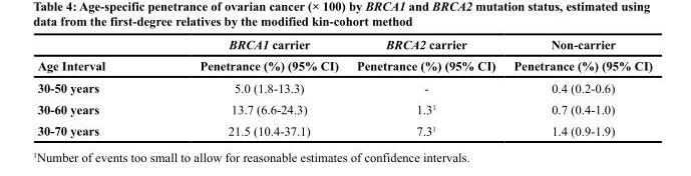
<table><thead><tr><td rowspan="2">Age Interval</td><td rowspan="2">BRCA1 carrier Penetrance (%) (95% CI)</td><td rowspan="2">BRCA2 carrier Penetrance (%) (95% CI)</td><td rowspan="2">Non-carrier Penetrance (%) (95% CI)</td></tr><tr></tr></thead><tbody><tr><td>30-50 years</td><td>5.0 (1.8-13.3)</td><td>-</td><td>0.4 (0.2-0.6)</td></tr><tr><td>30-60 years</td><td>13.7 (6.6-24.3)</td><td>1.3<sup>1</sup></td><td>0.7 (0.4-1.0)</td></tr><tr><td>30-70 years</td><td>21.5 (10.4-37.1)</td><td>7.3<sup>1</sup></td><td>1.4 (0.9-1.9)</td></tr></tbody></table>